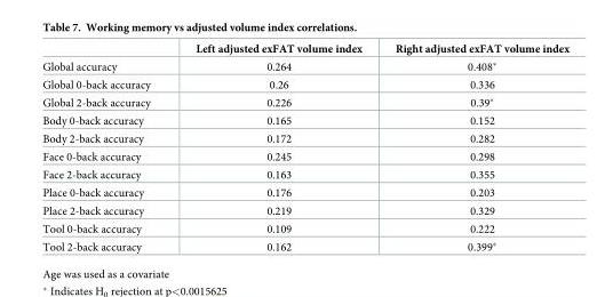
<table><thead><tr><td></td><td>Left adjusted exFAT volume index</td><td>Right adjusted exFAT volume index</td></tr></thead><tbody><tr><td>Global accuracy</td><td>0.264</td><td>0.408*</td></tr><tr><td>Global 0-back accuracy</td><td>0.26</td><td>0.336</td></tr><tr><td>Global 2-back accuracy</td><td>0.226</td><td>0.39*</td></tr><tr><td>Body 0-back accuracy</td><td>0.165</td><td>0.152</td></tr><tr><td>Body 2-back accuracy</td><td>0.172</td><td>0.282</td></tr><tr><td>Face 0-back accuracy</td><td>0.245</td><td>0.298</td></tr><tr><td>Face 2-back accuracy</td><td>0.163</td><td>0.355</td></tr><tr><td>Place 0-back accuracy</td><td>0.176</td><td>0.203</td></tr><tr><td>Place 2-back accuracy</td><td>0.219</td><td>0.329</td></tr><tr><td>Tool 0-back accuracy</td><td>0.109</td><td>0.222</td></tr><tr><td>Tool 2-back accuracy</td><td>0.162</td><td>0.399*</td></tr></tbody></table>